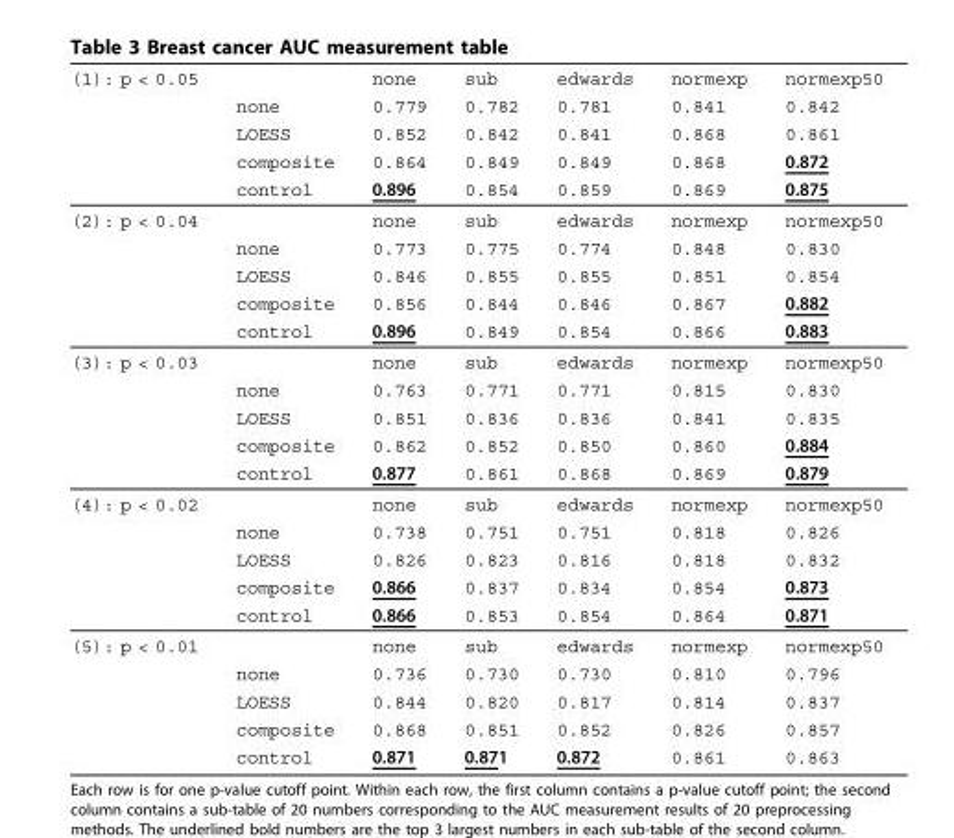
<table><thead><tr><td rowspan="5">(1): p &lt; 0.05</td><td rowspan="5">none LOESS composite control</td><td rowspan="5">none 0.779 0.852 0.864 0.896</td><td rowspan="5">sub 0.782 0.842 0.849 0.854</td><td rowspan="5">edwards 0.781 0.841 0.849 0.859</td><td rowspan="5">normexp 0.841 0.868 0.868 0.869</td><td rowspan="5">normexp50 0.842 0.861 0.872 0.875</td></tr><tr></tr><tr></tr><tr></tr><tr></tr></thead><tbody><tr><td rowspan="5">(2): p &lt; 0.04</td><td></td><td>none</td><td>sub</td><td>edwards</td><td>normexp</td><td>normexp50</td></tr><tr><td>none</td><td>0.773</td><td>0.775</td><td>0.774</td><td>0.848</td><td>0.830</td></tr><tr><td>LOESS</td><td>0.846</td><td>0.855</td><td>0.855</td><td>0.851</td><td>0.854</td></tr><tr><td>composite</td><td>0.856</td><td>0.844</td><td>0.846</td><td>0.867</td><td>0.882</td></tr><tr><td>control</td><td>0.896</td><td>0.849</td><td>0.854</td><td>0.866</td><td>0.883</td></tr><tr><td rowspan="5">(3): p &lt; 0.03</td><td></td><td>none</td><td>sub</td><td>edwards</td><td>normexp</td><td>normexp50</td></tr><tr><td>none</td><td>0.763</td><td>0.771</td><td>0.771</td><td>0.815</td><td>0.830</td></tr><tr><td>LOESS</td><td>0.851</td><td>0.836</td><td>0.836</td><td>0.841</td><td>0.835</td></tr><tr><td>composite</td><td>0.862</td><td>0.852</td><td>0.850</td><td>0.860</td><td>0.884</td></tr><tr><td>control</td><td>0.877</td><td>0.861</td><td>0.868</td><td>0.869</td><td>0.879</td></tr><tr><td rowspan="5">(4): p &lt; 0.02</td><td></td><td>none</td><td>sub</td><td>edwards</td><td>normexp</td><td>normexp50</td></tr><tr><td>none</td><td>0.738</td><td>0.751</td><td>0.751</td><td>0.818</td><td>0.826</td></tr><tr><td>LOESS</td><td>0.826</td><td>0.823</td><td>0.816</td><td>0.818</td><td>0.832</td></tr><tr><td>composite</td><td>0.866</td><td>0.837</td><td>0.834</td><td>0.854</td><td>0.873</td></tr><tr><td>control</td><td>0.866</td><td>0.853</td><td>0.854</td><td>0.864</td><td>0.871</td></tr><tr><td rowspan="5">(5): p &lt; 0.01</td><td></td><td>none</td><td>sub</td><td>edwards</td><td>normexp</td><td>normexp50</td></tr><tr><td>none</td><td>0.736</td><td>0.730</td><td>0.730</td><td>0.810</td><td>0.796</td></tr><tr><td>LOESS</td><td>0.844</td><td>0.820</td><td>0.817</td><td>0.814</td><td>0.837</td></tr><tr><td>composite</td><td>0.868</td><td>0.851</td><td>0.852</td><td>0.826</td><td>0.857</td></tr><tr><td>control</td><td>0.871</td><td>0.871</td><td>0.872</td><td>0.861</td><td>0.863</td></tr></tbody></table>